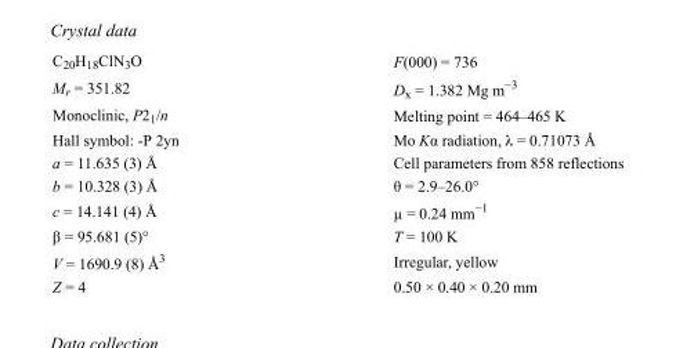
<table><tbody><tr><td>C<sub>20</sub>H<sub>18</sub>ClN<sub>3</sub>O</td><td>F(000) = 736</td></tr><tr><td>M<sub>r</sub> = 351.82</td><td>D<sub>x</sub> = 1.382 Mg m<sup>−3</sup></td></tr><tr><td>Monoclinic, P2<sub>1</sub>/n</td><td>Melting point = 464–465 K</td></tr><tr><td>Hall symbol: -P 2yn</td><td>Mo Kα radiation, λ = 0.71073 Å</td></tr><tr><td>a = 11.635 (3) Å</td><td>Cell parameters from 858 reflections</td></tr><tr><td>b = 10.328 (3) Å</td><td>θ = 2.9–26.0°</td></tr><tr><td>c = 14.141 (4) Å</td><td>µ = 0.24 mm<sup>−1</sup></td></tr><tr><td>β = 95.681 (5)°</td><td>T = 100 K</td></tr><tr><td>V = 1690.9 (8) Å<sup>3</sup></td><td>Irregular, yellow</td></tr><tr><td>Z = 4</td><td>0.50 × 0.40 × 0.20 mm</td></tr></tbody></table>